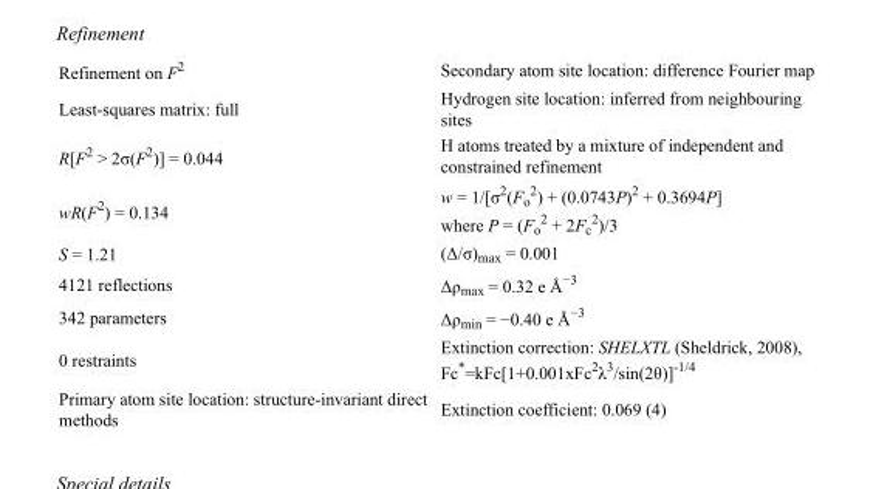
<table><tbody><tr><td>Refinement on F<sup>2</sup></td><td>Secondary atom site location: difference Fourier map</td></tr><tr><td>Least-squares matrix: full</td><td>Hydrogen site location: inferred from neighbouring sites</td></tr><tr><td>R[F<sup>2</sup> &gt; 2σ(F<sup>2</sup>)] = 0.044</td><td>H atoms treated by a mixture of independent and constrained refinement</td></tr><tr><td>wR(F<sup>2</sup>) = 0.134</td><td>w = 1/[σ<sup>2</sup>(F<sub>o</sub> <sup>2</sup>) + (0.0743P)<sup>2</sup> + 0.3694P] where P = (F<sub>o</sub> <sup>2</sup> + 2F<sub>c</sub> <sup>2</sup>)/3</td></tr><tr><td>S = 1.21</td><td>(Δ/σ)<sub>max</sub> = 0.001</td></tr><tr><td>4121 reflections</td><td>Δρ<sub>max</sub> = 0.32 e Å<sup>−3</sup></td></tr><tr><td>342 parameters</td><td>Δρ<sub>min</sub> = −0.40 e Å<sup>−3</sup></td></tr><tr><td>0 restraints</td><td>Extinction correction: SHELXTL (Sheldrick, 2008), Fc*=kFc[1+0.001xFc<sup>2</sup>λ<sup>3</sup>/sin(2θ)]<sup>-1/4</sup></td></tr><tr><td>Primary atom site location: structure-invariant direct methods</td><td>Extinction coefficient: 0.069 (4)</td></tr></tbody></table>